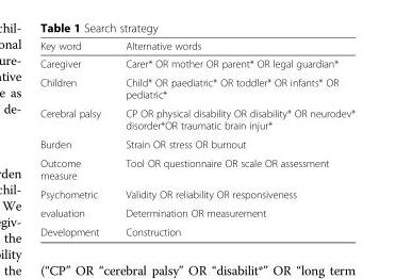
<table><thead><tr><td>Key word</td><td>Alternative words</td></tr></thead><tbody><tr><td>Caregiver</td><td>Carer* OR mother OR parent* OR legal guardian*</td></tr><tr><td>Children</td><td>Child* OR paediatric* OR toddler* OR infants* OR pediatric*</td></tr><tr><td>Cerebral palsy</td><td>CP OR physical disability OR disability* OR neurodev* disorder*OR traumatic brain injur*</td></tr><tr><td>Burden</td><td>Strain OR stress OR burnout</td></tr><tr><td>Outcome measure</td><td>Tool OR questionnaire OR scale OR assessment</td></tr><tr><td>Psychometric</td><td>Validity OR reliability OR responsiveness</td></tr><tr><td>evaluation</td><td>Determination OR measurement</td></tr><tr><td>Development</td><td>Construction</td></tr></tbody></table>